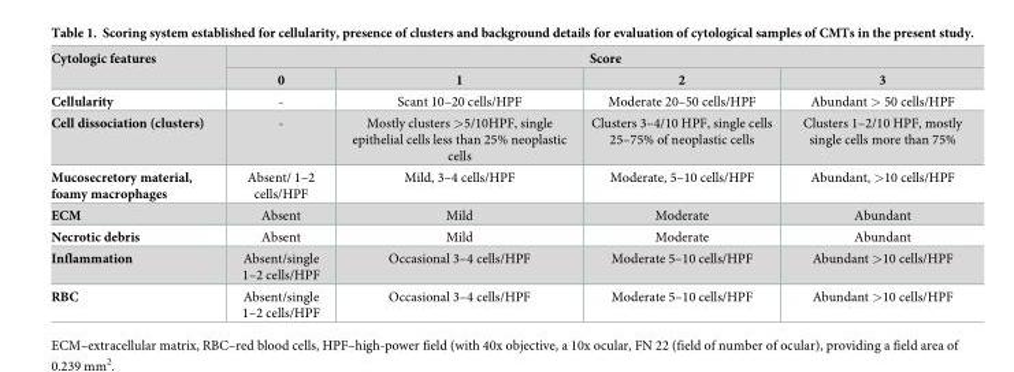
<table><thead><tr><td rowspan="2">Cytologic features</td><td colspan="4">Score</td></tr><tr><td>0</td><td>1</td><td>2</td><td>3</td></tr></thead><tbody><tr><td>Cellularity</td><td>-</td><td>Scant 10–20 cells/HPF</td><td>Moderate 20–50 cells/HPF</td><td>Abundant &gt; 50 cells/HPF</td></tr><tr><td>Cell dissociation (clusters)</td><td>-</td><td>Mostly clusters &gt;5/10HPF, single epithelial cells less than 25% neoplastic cells</td><td>Clusters 3–4/10 HPF, single cells 25–75% of neoplastic cells</td><td>Clusters 1–2/10 HPF, mostly single cells more than 75%</td></tr><tr><td>Mucosecretory material, foamy macrophages</td><td>Absent/ 1–2 cells/HPF</td><td>Mild, 3–4 cells/HPF</td><td>Moderate, 5–10 cells/HPF</td><td>Abundant, &gt;10 cells/HPF</td></tr><tr><td>ECM</td><td>Absent</td><td>Mild</td><td>Moderate</td><td>Abundant</td></tr><tr><td>Necrotic debris</td><td>Absent</td><td>Mild</td><td>Moderate</td><td>Abundant</td></tr><tr><td>Inflammation</td><td>Absent/single 1–2 cells/HPF</td><td>Occasional 3–4 cells/HPF</td><td>Moderate 5–10 cells/HPF</td><td>Abundant &gt;10 cells/HPF</td></tr><tr><td>RBC</td><td>Absent/single 1–2 cells/HPF</td><td>Occasional 3–4 cells/HPF</td><td>Moderate 5–10 cells/HPF</td><td>Abundant &gt;10 cells/HPF</td></tr></tbody></table>